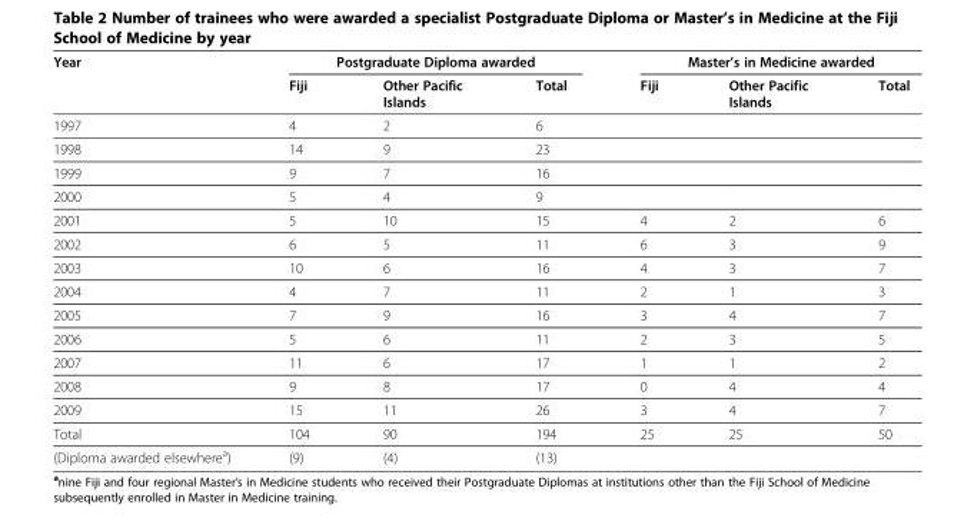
<table><thead><tr><td rowspan="2">Year</td><td colspan="3">Postgraduate Diploma awarded</td><td colspan="3">Master’s in Medicine awarded</td></tr><tr><td>Fiji</td><td>Other Pacific Islands</td><td>Total</td><td>Fiji</td><td>Other Pacific Islands</td><td>Total</td></tr></thead><tbody><tr><td>1997</td><td>4</td><td>2</td><td>6</td><td></td><td></td><td></td></tr><tr><td>1998</td><td>14</td><td>9</td><td>23</td><td></td><td></td><td></td></tr><tr><td>1999</td><td>9</td><td>7</td><td>16</td><td></td><td></td><td></td></tr><tr><td>2000</td><td>5</td><td>4</td><td>9</td><td></td><td></td><td></td></tr><tr><td>2001</td><td>5</td><td>10</td><td>15</td><td>4</td><td>2</td><td>6</td></tr><tr><td>2002</td><td>6</td><td>5</td><td>11</td><td>6</td><td>3</td><td>9</td></tr><tr><td>2003</td><td>10</td><td>6</td><td>16</td><td>4</td><td>3</td><td>7</td></tr><tr><td>2004</td><td>4</td><td>7</td><td>11</td><td>2</td><td>1</td><td>3</td></tr><tr><td>2005</td><td>7</td><td>9</td><td>16</td><td>3</td><td>4</td><td>7</td></tr><tr><td>2006</td><td>5</td><td>6</td><td>11</td><td>2</td><td>3</td><td>5</td></tr><tr><td>2007</td><td>11</td><td>6</td><td>17</td><td>1</td><td>1</td><td>2</td></tr><tr><td>2008</td><td>9</td><td>8</td><td>17</td><td>0</td><td>4</td><td>4</td></tr><tr><td>2009</td><td>15</td><td>11</td><td>26</td><td>3</td><td>4</td><td>7</td></tr><tr><td>Total</td><td>104</td><td>90</td><td>194</td><td>25</td><td>25</td><td>50</td></tr><tr><td>(Diploma awarded elsewhere<sup>a</sup>)</td><td>(9)</td><td>(4)</td><td>(13)</td><td></td><td></td><td></td></tr></tbody></table>